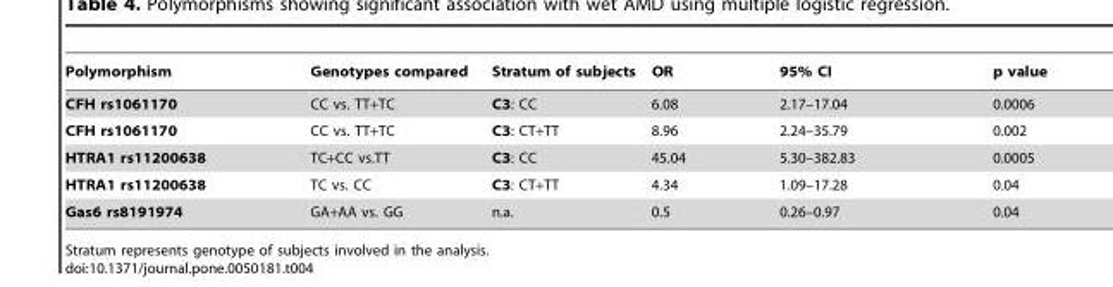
<table><thead><tr><td>Polymorphism</td><td>Genotypes compared</td><td>Stratum of subjects</td><td>OR</td><td>95% CI</td><td>p value</td></tr></thead><tbody><tr><td>CFH rs1061170</td><td>CC vs. TT+TC</td><td>C3: CC</td><td>6.08</td><td>2.17–17.04</td><td>0.0006</td></tr><tr><td>CFH rs1061170</td><td>CC vs. TT+TC</td><td>C3: CT+TT</td><td>8.96</td><td>2.24–35.79</td><td>0.002</td></tr><tr><td>HTRA1 rs11200638</td><td>TC+CC vs.TT</td><td>C3: CC</td><td>45.04</td><td>5.30–382.83</td><td>0.0005</td></tr><tr><td>HTRA1 rs11200638</td><td>TC vs. CC</td><td>C3: CT+TT</td><td>4.34</td><td>1.09–17.28</td><td>0.04</td></tr><tr><td>Gas6 rs8191974</td><td>GA+AA vs. GG</td><td>n.a.</td><td>0.5</td><td>0.26–0.97</td><td>0.04</td></tr></tbody></table>